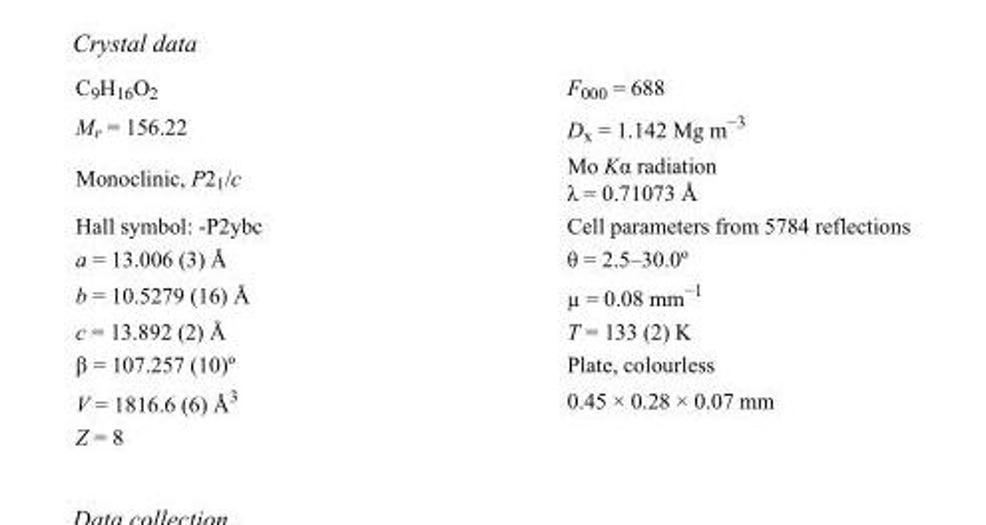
<table><tbody><tr><td>C<sub>9</sub>H<sub>16</sub>O<sub>2</sub></td><td>F000 = 688</td></tr><tr><td>M<sub>r</sub> = 156.22</td><td>D<sub>x</sub> = 1.142 Mg m<sup>−3</sup></td></tr><tr><td>Monoclinic, P2<sub>1</sub>/c</td><td>Mo Kα radiation λ = 0.71073 Å</td></tr><tr><td>Hall symbol: -P2ybc</td><td>Cell parameters from 5784 reflections</td></tr><tr><td>a = 13.006 (3) Å</td><td>θ = 2.5–30.0º</td></tr><tr><td>b = 10.5279 (16) Å</td><td>µ = 0.08 mm<sup>−1</sup></td></tr><tr><td>c = 13.892 (2) Å</td><td>T = 133 (2) K</td></tr><tr><td>β = 107.257 (10)º</td><td>Plate, colourless</td></tr><tr><td>V = 1816.6 (6) Å<sup>3</sup></td><td>0.45 × 0.28 × 0.07 mm</td></tr><tr><td>Z = 8</td><td></td></tr></tbody></table>